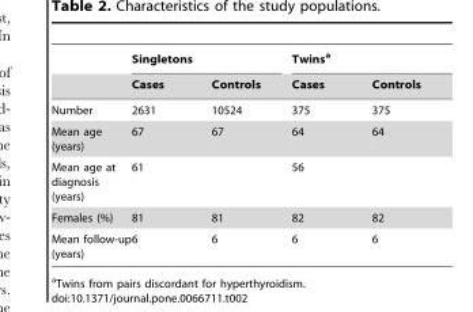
<table><thead><tr><td rowspan="2"></td><td colspan="2">Singletons</td><td colspan="2">Twins<sup>a</sup></td></tr><tr><td>Cases</td><td>Controls</td><td>Cases</td><td>Controls</td></tr></thead><tbody><tr><td>Number</td><td>2631</td><td>10524</td><td>375</td><td>375</td></tr><tr><td>Mean age (years)</td><td>67</td><td>67</td><td>64</td><td>64</td></tr><tr><td>Mean age at diagnosis (years)</td><td>61</td><td></td><td>56</td><td></td></tr><tr><td>Females (%)</td><td>81</td><td>81</td><td>82</td><td>82</td></tr><tr><td>Mean follow-up (years)</td><td>6</td><td>6</td><td>6</td><td>6</td></tr></tbody></table>